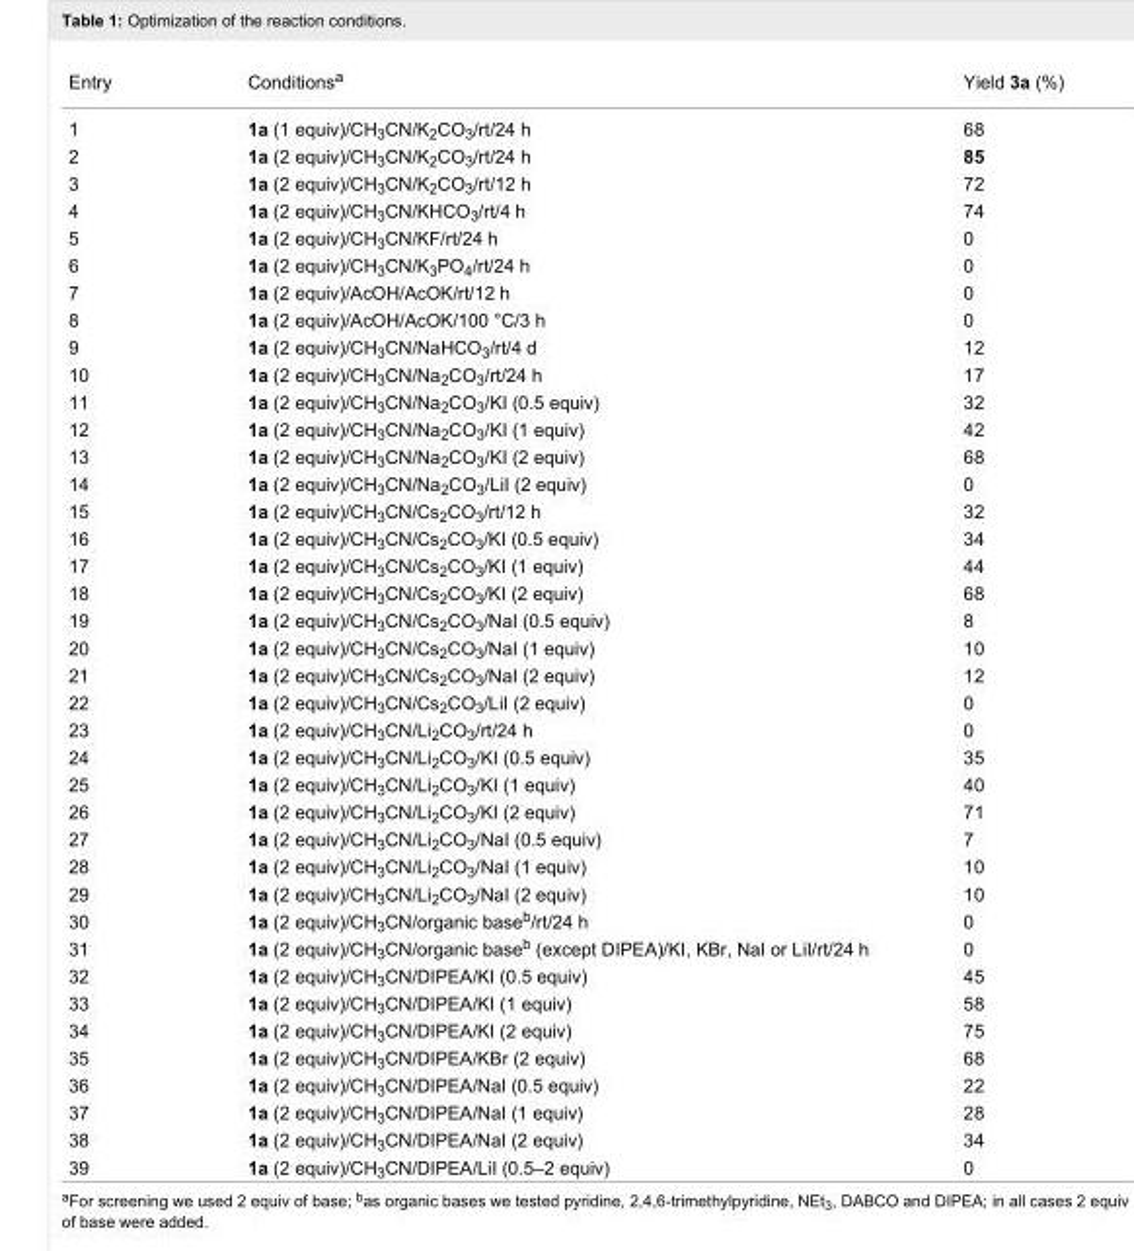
<table><tbody><tr><td>Entry</td><td>Conditions<sup>a</sup></td><td>Yield 3a (%)</td></tr><tr><td>1</td><td>1a (1 equiv)/CH<sub>3</sub>CN/K<sub>2</sub>CO<sub>3</sub>/rt/24 h</td><td>68</td></tr><tr><td>2</td><td>1a (2 equiv)/CH<sub>3</sub>CN/K<sub>2</sub>CO<sub>3</sub>/rt/24 h</td><td>85</td></tr><tr><td>3</td><td>1a (2 equiv)/CH<sub>3</sub>CN/K<sub>2</sub>CO<sub>3</sub>/rt/12 h</td><td>72</td></tr><tr><td>4</td><td>1a (2 equiv)/CH<sub>3</sub>CN/KHCO<sub>3</sub>/rt/4 h</td><td>74</td></tr><tr><td>5</td><td>1a (2 equiv)/CH<sub>3</sub>CN/KF/rt/24 h</td><td>0</td></tr><tr><td>6</td><td>1a (2 equiv)/CH<sub>3</sub>CN/K<sub>3</sub>PO<sub>4</sub>/rt/24 h</td><td>0</td></tr><tr><td>7</td><td>1a (2 equiv)/AcOH/AcOK/rt/12 h</td><td>0</td></tr><tr><td>8</td><td>1a (2 equiv)/AcOH/AcOK/100 °C/3 h</td><td>0</td></tr><tr><td>9</td><td>1a (2 equiv)/CH<sub>3</sub>CN/NaHCO<sub>3</sub>/rt/4 d</td><td>12</td></tr><tr><td>10</td><td>1a (2 equiv)/CH<sub>3</sub>CN/Na<sub>2</sub>CO<sub>3</sub>/rt/24 h</td><td>17</td></tr><tr><td>11</td><td>1a (2 equiv)/CH<sub>3</sub>CN/Na<sub>2</sub>CO<sub>3</sub>/KI (0.5 equiv)</td><td>32</td></tr><tr><td>12</td><td>1a (2 equiv)/CH<sub>3</sub>CN/Na<sub>2</sub>CO<sub>3</sub>/KI (1 equiv)</td><td>42</td></tr><tr><td>13</td><td>1a (2 equiv)/CH<sub>3</sub>CN/Na<sub>2</sub>CO<sub>3</sub>/KI (2 equiv)</td><td>68</td></tr><tr><td>14</td><td>1a (2 equiv)/CH<sub>3</sub>CN/Na<sub>2</sub>CO<sub>3</sub>/LiI (2 equiv)</td><td>0</td></tr><tr><td>15</td><td>1a (2 equiv)/CH<sub>3</sub>CN/Cs<sub>2</sub>CO<sub>3</sub>/rt/12 h</td><td>32</td></tr><tr><td>16</td><td>1a (2 equiv)/CH<sub>3</sub>CN/Cs<sub>2</sub>CO<sub>3</sub>/KI (0.5 equiv)</td><td>34</td></tr><tr><td>17</td><td>1a (2 equiv)/CH<sub>3</sub>CN/Cs<sub>2</sub>CO<sub>3</sub>/KI (1 equiv)</td><td>44</td></tr><tr><td>18</td><td>1a (2 equiv)/CH<sub>3</sub>CN/Cs<sub>2</sub>CO<sub>3</sub>/KI (2 equiv)</td><td>68</td></tr><tr><td>19</td><td>1a (2 equiv)/CH<sub>3</sub>CN/Cs<sub>2</sub>CO<sub>3</sub>/NaI (0.5 equiv)</td><td>8</td></tr><tr><td>20</td><td>1a (2 equiv)/CH<sub>3</sub>CN/Cs<sub>2</sub>CO<sub>3</sub>/NaI (1 equiv)</td><td>10</td></tr><tr><td>21</td><td>1a (2 equiv)/CH<sub>3</sub>CN/Cs<sub>2</sub>CO<sub>3</sub>/NaI (2 equiv)</td><td>12</td></tr><tr><td>22</td><td>1a (2 equiv)/CH<sub>3</sub>CN/Cs<sub>2</sub>CO<sub>3</sub>/LiI (2 equiv)</td><td>0</td></tr><tr><td>23</td><td>1a (2 equiv)/CH<sub>3</sub>CN/Li<sub>2</sub>CO<sub>3</sub>/rt/24 h</td><td>0</td></tr><tr><td>24</td><td>1a (2 equiv)/CH<sub>3</sub>CN/Li<sub>2</sub>CO<sub>3</sub>/KI (0.5 equiv)</td><td>35</td></tr><tr><td>25</td><td>1a (2 equiv)/CH<sub>3</sub>CN/Li<sub>2</sub>CO<sub>3</sub>/KI (1 equiv)</td><td>40</td></tr><tr><td>26</td><td>1a (2 equiv)/CH<sub>3</sub>CN/Li<sub>2</sub>CO<sub>3</sub>/KI (2 equiv)</td><td>71</td></tr><tr><td>27</td><td>1a (2 equiv)/CH<sub>3</sub>CN/Li<sub>2</sub>CO<sub>3</sub>/NaI (0.5 equiv)</td><td>7</td></tr><tr><td>28</td><td>1a (2 equiv)/CH<sub>3</sub>CN/Li<sub>2</sub>CO<sub>3</sub>/NaI (1 equiv)</td><td>10</td></tr><tr><td>29</td><td>1a (2 equiv)/CH<sub>3</sub>CN/Li<sub>2</sub>CO<sub>3</sub>/NaI (2 equiv)</td><td>10</td></tr><tr><td>30</td><td>1a (2 equiv)/CH<sub>3</sub>CN/organic base<sup>b</sup>/rt/24 h</td><td>0</td></tr><tr><td>31</td><td>1a (2 equiv)/CH<sub>3</sub>CN/organic base<sup>b</sup> (except DIPEA)/KI, KBr, NaI or LiI/rt/24 h</td><td>0</td></tr><tr><td>32</td><td>1a (2 equiv)/CH<sub>3</sub>CN/DIPEA/KI (0.5 equiv)</td><td>45</td></tr><tr><td>33</td><td>1a (2 equiv)/CH<sub>3</sub>CN/DIPEA/KI (1 equiv)</td><td>58</td></tr><tr><td>34</td><td>1a (2 equiv)/CH<sub>3</sub>CN/DIPEA/KI (2 equiv)</td><td>75</td></tr><tr><td>35</td><td>1a (2 equiv)/CH<sub>3</sub>CN/DIPEA/KBr (2 equiv)</td><td>68</td></tr><tr><td>36</td><td>1a (2 equiv)/CH<sub>3</sub>CN/DIPEA/NaI (0.5 equiv)</td><td>22</td></tr><tr><td>37</td><td>1a (2 equiv)/CH<sub>3</sub>CN/DIPEA/NaI (1 equiv)</td><td>28</td></tr><tr><td>38</td><td>1a (2 equiv)/CH<sub>3</sub>CN/DIPEA/NaI (2 equiv)</td><td>34</td></tr><tr><td>39</td><td>1a (2 equiv)/CH<sub>3</sub>CN/DIPEA/LiI (0.5–2 equiv)</td><td>0</td></tr></tbody></table>